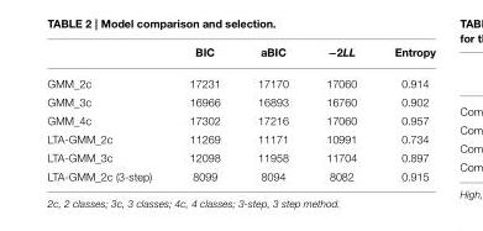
<table><thead><tr><td></td><td>BIC</td><td>aBIC</td><td>−2LL</td><td>Entropy</td></tr></thead><tbody><tr><td>GMM_2c</td><td>17231</td><td>17170</td><td>17060</td><td>0.914</td></tr><tr><td>GMM_3c</td><td>16966</td><td>16893</td><td>16760</td><td>0.902</td></tr><tr><td>GMM_4c</td><td>17302</td><td>17216</td><td>17060</td><td>0.957</td></tr><tr><td>LTA-GMM_2c</td><td>11269</td><td>11171</td><td>10991</td><td>0.734</td></tr><tr><td>LTA-GMM_3c</td><td>12098</td><td>11958</td><td>11704</td><td>0.897</td></tr><tr><td>LTA-GMM_2c (3-step)</td><td>8099</td><td>8094</td><td>8082</td><td>0.915</td></tr></tbody></table>